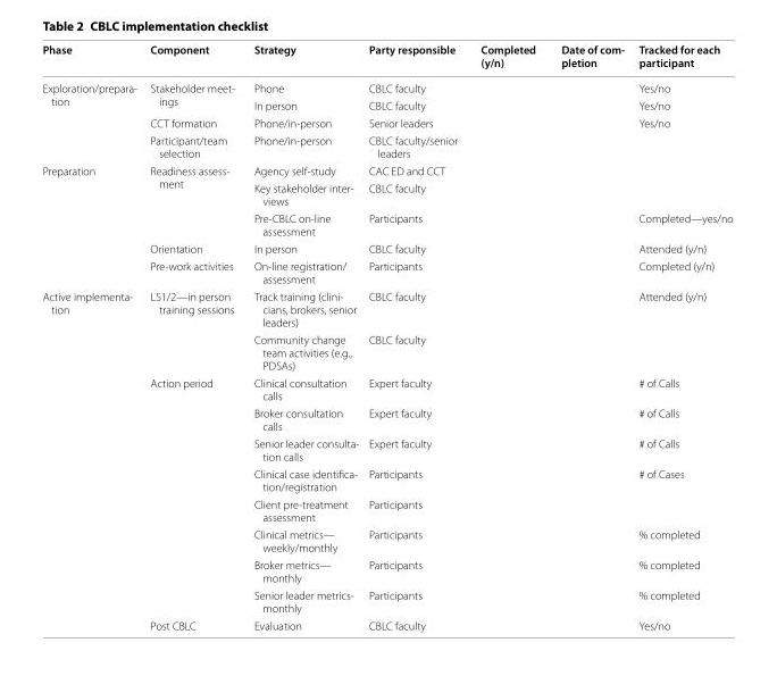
<table><thead><tr><td>Phase</td><td>Component</td><td>Strategy</td><td>Party responsible</td><td>Completed (y/n)</td><td>Date of com‑ pletion</td><td>Tracked for each participant</td></tr></thead><tbody><tr><td rowspan="4">Exploration/prepara- tion</td><td rowspan="2">Stakeholder meet- ings</td><td>Phone</td><td>CBLC faculty</td><td></td><td></td><td>Yes/no</td></tr><tr><td>In person</td><td>CBLC faculty</td><td></td><td></td><td>Yes/no</td></tr><tr><td>CCT formation</td><td>Phone/in-person</td><td>Senior leaders</td><td></td><td></td><td>Yes/no</td></tr><tr><td>Participant/team selection</td><td>Phone/in-person</td><td>CBLC faculty/senior leaders</td><td></td><td></td><td rowspan="3"></td></tr><tr><td rowspan="5">Preparation</td><td rowspan="3">Readiness assess- ment</td><td>Agency self-study</td><td>CAC ED and CCT</td><td></td><td></td></tr><tr><td>Key stakeholder inter- views</td><td>CBLC faculty</td><td></td><td></td></tr><tr><td>Pre-CBLC on-line assessment</td><td>Participants</td><td></td><td></td><td>Completed—yes/no</td></tr><tr><td>Orientation</td><td>In person</td><td>CBLC faculty</td><td></td><td></td><td>Attended (y/n)</td></tr><tr><td>Pre-work activities</td><td>On-line registration/ assessment</td><td>Participants</td><td></td><td></td><td>Completed (y/n)</td></tr><tr><td rowspan="11">Active implementa- tion</td><td rowspan="2">LS1/2—in person training sessions</td><td>Track training (clini- cians, brokers, senior leaders)</td><td>CBLC faculty</td><td></td><td></td><td rowspan="2">Attended (y/n)</td></tr><tr><td>Community change team activities (e.g., PDSAs)</td><td>CBLC faculty</td><td></td><td></td></tr><tr><td rowspan="8">Action period</td><td>Clinical consultation calls</td><td>Expert faculty</td><td></td><td></td><td># of Calls</td></tr><tr><td>Broker consultation calls</td><td>Expert faculty</td><td></td><td></td><td># of Calls</td></tr><tr><td>Senior leader consulta- tion calls</td><td>Expert faculty</td><td></td><td></td><td># of Calls</td></tr><tr><td>Clinical case identifica- tion/registration</td><td>Participants</td><td></td><td></td><td rowspan="2"># of Cases</td></tr><tr><td>Client pre-treatment assessment</td><td>Participants</td><td></td><td></td></tr><tr><td>Clinical metrics— weekly/monthly</td><td>Participants</td><td></td><td></td><td>% completed</td></tr><tr><td>Broker metrics— monthly</td><td>Participants</td><td></td><td></td><td>% completed</td></tr><tr><td>Senior leader metrics- monthly</td><td>Participants</td><td></td><td></td><td>% completed</td></tr><tr><td>Post CBLC</td><td>Evaluation</td><td>CBLC faculty</td><td></td><td></td><td>Yes/no</td></tr></tbody></table>